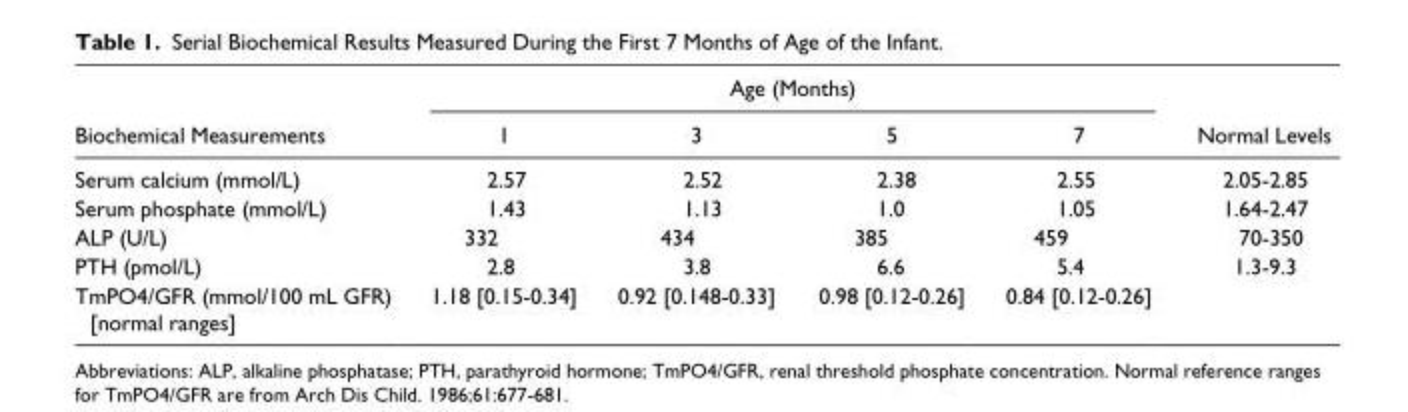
<table><thead><tr><td rowspan="2">Biochemical Measurements</td><td colspan="4">Age (Months)</td><td rowspan="2">Normal Levels</td></tr><tr><td>1</td><td>3</td><td>5</td><td>7</td></tr></thead><tbody><tr><td>Serum calcium (mmol/L)</td><td>2.57</td><td>2.52</td><td>2.38</td><td>2.55</td><td>2.05-2.85</td></tr><tr><td>Serum phosphate (mmol/L)</td><td>1.43</td><td>1.13</td><td>1.0</td><td>1.05</td><td>1.64-2.47</td></tr><tr><td>ALP (U/L)</td><td>332</td><td>434</td><td>385</td><td>459</td><td>70-350</td></tr><tr><td>PTH (pmol/L)</td><td>2.8</td><td>3.8</td><td>6.6</td><td>5.4</td><td>1.3-9.3</td></tr><tr><td>TmPO4/GFR (mmol/100 mL GFR) [normal ranges]</td><td>1.18 [0.15-0.34]</td><td>0.92 [0.148-0.33]</td><td>0.98 [0.12-0.26]</td><td>0.84 [0.12-0.26]</td><td></td></tr></tbody></table>